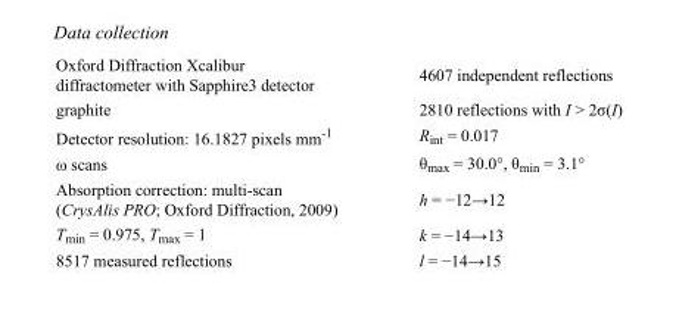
<table><tbody><tr><td>Oxford Diffraction Xcalibur diffractometer with Sapphire3 detector</td><td>4607 independent reflections</td></tr><tr><td>graphite</td><td>2810 reflections with I &gt; 2σ(I)</td></tr><tr><td>Detector resolution: 16.1827 pixels mm<sup>-1</sup></td><td>R<sub>int</sub> = 0.017</td></tr><tr><td>ω scans</td><td>θ<sub>max</sub> = 30.0°, θ<sub>min</sub> = 3.1°</td></tr><tr><td>Absorption correction: multi-scan (CrysAlis PRO; Oxford Diffraction, 2009)</td><td>h = −12→12</td></tr><tr><td>T<sub>min</sub> = 0.975, T<sub>max</sub> = 1</td><td>k = −14→13</td></tr><tr><td>8517 measured reflections</td><td>l = −14→15</td></tr></tbody></table>